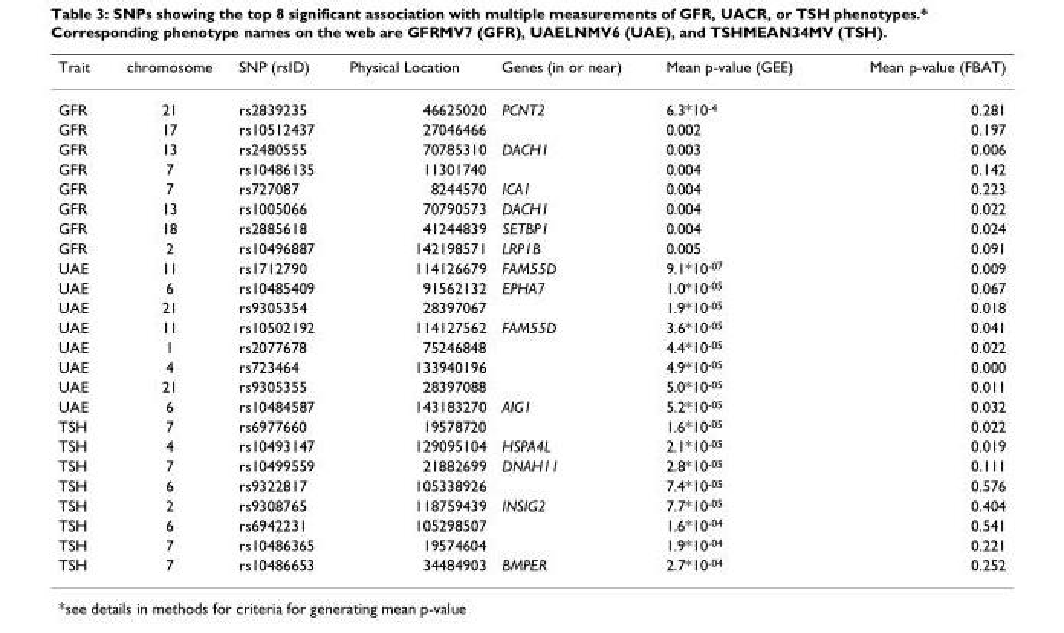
<table><thead><tr><td>Trait</td><td>chromosome</td><td>SNP (rsID)</td><td>Physical Location</td><td>Genes (in or near)</td><td>Mean p-value (GEE)</td><td>Mean p-value (FBAT)</td></tr></thead><tbody><tr><td>GFR</td><td>21</td><td>rs2839235</td><td>46625020</td><td>PCNT2</td><td>6.3*10<sup>-4</sup></td><td>0.281</td></tr><tr><td>GFR</td><td>17</td><td>rs10512437</td><td>27046466</td><td></td><td>0.002</td><td>0.197</td></tr><tr><td>GFR</td><td>13</td><td>rs2480555</td><td>70785310</td><td>DACH1</td><td>0.003</td><td>0.006</td></tr><tr><td>GFR</td><td>7</td><td>rs10486135</td><td>11301740</td><td></td><td>0.004</td><td>0.142</td></tr><tr><td>GFR</td><td>7</td><td>rs727087</td><td>8244570</td><td>ICA1</td><td>0.004</td><td>0.223</td></tr><tr><td>GFR</td><td>13</td><td>rs1005066</td><td>70790573</td><td>DACH1</td><td>0.004</td><td>0.022</td></tr><tr><td>GFR</td><td>18</td><td>rs2885618</td><td>41244839</td><td>SETBP1</td><td>0.004</td><td>0.024</td></tr><tr><td>GFR</td><td>2</td><td>rs10496887</td><td>142198571</td><td>LRP1B</td><td>0.005</td><td>0.091</td></tr><tr><td>UAE</td><td>11</td><td>rs1712790</td><td>114126679</td><td>FAM55D</td><td>9.1*10<sup>-07</sup></td><td>0.009</td></tr><tr><td>UAE</td><td>6</td><td>rs10485409</td><td>91562132</td><td>EPHA7</td><td>1.0*10<sup>-05</sup></td><td>0.067</td></tr><tr><td>UAE</td><td>21</td><td>rs9305354</td><td>28397067</td><td></td><td>1.9*10<sup>-05</sup></td><td>0.018</td></tr><tr><td>UAE</td><td>11</td><td>rs10502192</td><td>114127562</td><td>FAM55D</td><td>3.6*10<sup>-05</sup></td><td>0.041</td></tr><tr><td>UAE</td><td>1</td><td>rs2077678</td><td>75246848</td><td></td><td>4.4*10<sup>-05</sup></td><td>0.022</td></tr><tr><td>UAE</td><td>4</td><td>rs723464</td><td>133940196</td><td></td><td>4.9*10<sup>-05</sup></td><td>0.000</td></tr><tr><td>UAE</td><td>21</td><td>rs9305355</td><td>28397088</td><td></td><td>5.0*10<sup>-05</sup></td><td>0.011</td></tr><tr><td>UAE</td><td>6</td><td>rs10484587</td><td>143183270</td><td>AIG1</td><td>5.2*10<sup>-05</sup></td><td>0.032</td></tr><tr><td>TSH</td><td>7</td><td>rs6977660</td><td>19578720</td><td></td><td>1.6*10<sup>-05</sup></td><td>0.022</td></tr><tr><td>TSH</td><td>4</td><td>rs10493147</td><td>129095104</td><td>HSPA4L</td><td>2.1*10<sup>-05</sup></td><td>0.019</td></tr><tr><td>TSH</td><td>7</td><td>rs10499559</td><td>21882699</td><td>DNAH11</td><td>2.8*10<sup>-05</sup></td><td>0.111</td></tr><tr><td>TSH</td><td>6</td><td>rs9322817</td><td>105338926</td><td></td><td>7.4*10<sup>-05</sup></td><td>0.576</td></tr><tr><td>TSH</td><td>2</td><td>rs9308765</td><td>118759439</td><td>INSIG2</td><td>7.7*10<sup>-05</sup></td><td>0.404</td></tr><tr><td>TSH</td><td>6</td><td>rs6942231</td><td>105298507</td><td></td><td>1.6*10<sup>-04</sup></td><td>0.541</td></tr><tr><td>TSH</td><td>7</td><td>rs10486365</td><td>19574604</td><td></td><td>1.9*10<sup>-04</sup></td><td>0.221</td></tr><tr><td>TSH</td><td>7</td><td>rs10486653</td><td>34484903</td><td>BMPER</td><td>2.7*10<sup>-04</sup></td><td>0.252</td></tr></tbody></table>